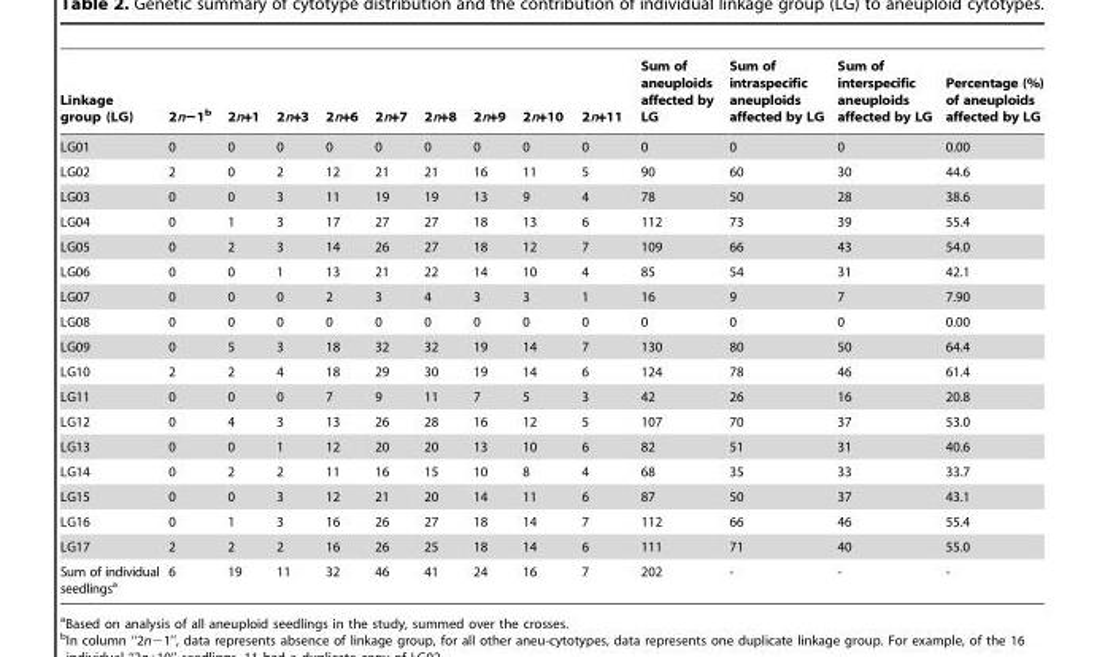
<table><thead><tr><td>Linkage group (LG)</td><td>2n−1<sup>b</sup></td><td>2n+1</td><td>2n+3</td><td>2n+6</td><td>2n+7</td><td>2n+8</td><td>2n+9</td><td>2n+10</td><td>2n+11</td><td>Sum of aneuploids affected by LG</td><td>Sum of intraspecific aneuploids affected by LG</td><td>Sum of interspecific aneuploids affected by LG</td><td>Percentage (%) of aneuploids affected by LG</td></tr></thead><tbody><tr><td>LG01</td><td>0</td><td>0</td><td>0</td><td>0</td><td>0</td><td>0</td><td>0</td><td>0</td><td>0</td><td>0</td><td>0</td><td>0</td><td>0.00</td></tr><tr><td>LG02</td><td>2</td><td>0</td><td>2</td><td>12</td><td>21</td><td>21</td><td>16</td><td>11</td><td>5</td><td>90</td><td>60</td><td>30</td><td>44.6</td></tr><tr><td>LG03</td><td>0</td><td>0</td><td>3</td><td>11</td><td>19</td><td>19</td><td>13</td><td>9</td><td>4</td><td>78</td><td>50</td><td>28</td><td>38.6</td></tr><tr><td>LG04</td><td>0</td><td>1</td><td>3</td><td>17</td><td>27</td><td>27</td><td>18</td><td>13</td><td>6</td><td>112</td><td>73</td><td>39</td><td>55.4</td></tr><tr><td>LG05</td><td>0</td><td>2</td><td>3</td><td>14</td><td>26</td><td>27</td><td>18</td><td>12</td><td>7</td><td>109</td><td>66</td><td>43</td><td>54.0</td></tr><tr><td>LG06</td><td>0</td><td>0</td><td>1</td><td>13</td><td>21</td><td>22</td><td>14</td><td>10</td><td>4</td><td>85</td><td>54</td><td>31</td><td>42.1</td></tr><tr><td>LG07</td><td>0</td><td>0</td><td>0</td><td>2</td><td>3</td><td>4</td><td>3</td><td>3</td><td>1</td><td>16</td><td>9</td><td>7</td><td>7.90</td></tr><tr><td>LG08</td><td>0</td><td>0</td><td>0</td><td>0</td><td>0</td><td>0</td><td>0</td><td>0</td><td>0</td><td>0</td><td>0</td><td>0</td><td>0.00</td></tr><tr><td>LG09</td><td>0</td><td>5</td><td>3</td><td>18</td><td>32</td><td>32</td><td>19</td><td>14</td><td>7</td><td>130</td><td>80</td><td>50</td><td>64.4</td></tr><tr><td>LG10</td><td>2</td><td>2</td><td>4</td><td>18</td><td>29</td><td>30</td><td>19</td><td>14</td><td>6</td><td>124</td><td>78</td><td>46</td><td>61.4</td></tr><tr><td>LG11</td><td>0</td><td>0</td><td>0</td><td>7</td><td>9</td><td>11</td><td>7</td><td>5</td><td>3</td><td>42</td><td>26</td><td>16</td><td>20.8</td></tr><tr><td>LG12</td><td>0</td><td>4</td><td>3</td><td>13</td><td>26</td><td>28</td><td>16</td><td>12</td><td>5</td><td>107</td><td>70</td><td>37</td><td>53.0</td></tr><tr><td>LG13</td><td>0</td><td>0</td><td>1</td><td>12</td><td>20</td><td>20</td><td>13</td><td>10</td><td>6</td><td>82</td><td>51</td><td>31</td><td>40.6</td></tr><tr><td>LG14</td><td>0</td><td>2</td><td>2</td><td>11</td><td>16</td><td>15</td><td>10</td><td>8</td><td>4</td><td>68</td><td>35</td><td>33</td><td>33.7</td></tr><tr><td>LG15</td><td>0</td><td>0</td><td>3</td><td>12</td><td>21</td><td>20</td><td>14</td><td>11</td><td>6</td><td>87</td><td>50</td><td>37</td><td>43.1</td></tr><tr><td>LG16</td><td>0</td><td>1</td><td>3</td><td>16</td><td>26</td><td>27</td><td>18</td><td>14</td><td>7</td><td>112</td><td>66</td><td>46</td><td>55.4</td></tr><tr><td>LG17</td><td>2</td><td>2</td><td>2</td><td>16</td><td>26</td><td>25</td><td>18</td><td>14</td><td>6</td><td>111</td><td>71</td><td>40</td><td>55.0</td></tr><tr><td>Sum of individual seedlings<sup>a</sup></td><td>6</td><td>19</td><td>11</td><td>32</td><td>46</td><td>41</td><td>24</td><td>16</td><td>7</td><td>202</td><td>-</td><td>-</td><td>-</td></tr></tbody></table>